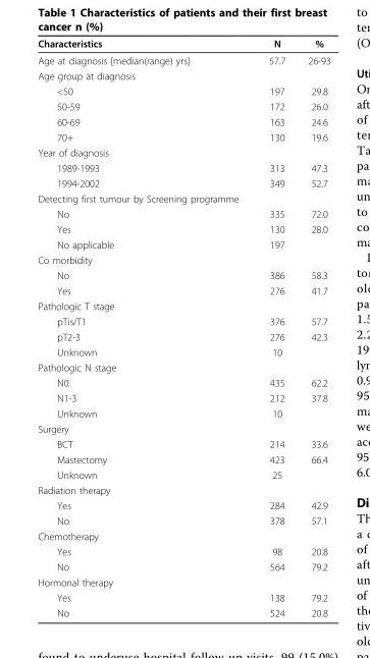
<table><thead><tr><td>Characteristics</td><td>N</td><td>%</td></tr></thead><tbody><tr><td>Age at diagnosis [median(range) yrs]</td><td>57.7</td><td>26-93</td></tr><tr><td colspan="3">Age group at diagnosis</td></tr><tr><td>&lt;50</td><td>197</td><td>29.8</td></tr><tr><td>50-59</td><td>172</td><td>26.0</td></tr><tr><td>60-69</td><td>163</td><td>24.6</td></tr><tr><td>70+</td><td>130</td><td>19.6</td></tr><tr><td colspan="3">Year of diagnosis</td></tr><tr><td>1989-1993</td><td>313</td><td>47.3</td></tr><tr><td>1994-2002</td><td>349</td><td>52.7</td></tr><tr><td colspan="3">Detecting first tumour by Screening programme</td></tr><tr><td>No</td><td>335</td><td>72.0</td></tr><tr><td>Yes</td><td>130</td><td>28.0</td></tr><tr><td>No applicable</td><td>197</td><td></td></tr><tr><td colspan="3">Co morbidity</td></tr><tr><td>No</td><td>386</td><td>58.3</td></tr><tr><td>Yes</td><td>276</td><td>41.7</td></tr><tr><td colspan="3">Pathologic T stage</td></tr><tr><td>pTis/T1</td><td>376</td><td>57.7</td></tr><tr><td>pT2-3</td><td>276</td><td>42.3</td></tr><tr><td>Unknown</td><td>10</td><td></td></tr><tr><td colspan="3">Pathologic N stage</td></tr><tr><td>N0</td><td>435</td><td>62.2</td></tr><tr><td>N1-3</td><td>212</td><td>37.8</td></tr><tr><td>Unknown</td><td>10</td><td></td></tr><tr><td colspan="3">Surgery</td></tr><tr><td>BCT</td><td>214</td><td>33.6</td></tr><tr><td>Mastectomy</td><td>423</td><td>66.4</td></tr><tr><td>Unknown</td><td>25</td><td></td></tr><tr><td colspan="3">Radiation therapy</td></tr><tr><td>Yes</td><td>284</td><td>42.9</td></tr><tr><td>No</td><td>378</td><td>57.1</td></tr><tr><td colspan="3">Chemotherapy</td></tr><tr><td>Yes</td><td>98</td><td>20.8</td></tr><tr><td>No</td><td>564</td><td>79.2</td></tr><tr><td colspan="3">Hormonal therapy</td></tr><tr><td>Yes</td><td>138</td><td>79.2</td></tr><tr><td>No</td><td>524</td><td>20.8</td></tr></tbody></table>